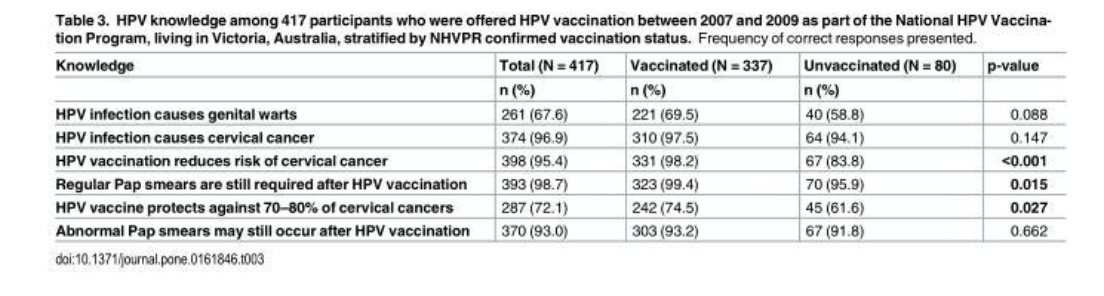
<table><thead><tr><td rowspan="2">Knowledge</td><td rowspan="2">Total (N = 417) n (%)</td><td rowspan="2">Vaccinated (N = 337) n (%)</td><td rowspan="2">Unvaccinated (N = 80) n (%)</td><td rowspan="2">p-value</td></tr><tr></tr></thead><tbody><tr><td>HPV infection causes genital warts</td><td>261 (67.6)</td><td>221 (69.5)</td><td>40 (58.8)</td><td>0.088</td></tr><tr><td>HPV infection causes cervical cancer</td><td>374 (96.9)</td><td>310 (97.5)</td><td>64 (94.1)</td><td>0.147</td></tr><tr><td>HPV vaccination reduces risk of cervical cancer</td><td>398 (95.4)</td><td>331 (98.2)</td><td>67 (83.8)</td><td>&lt;0.001</td></tr><tr><td>Regular Pap smears are still required after HPV vaccination</td><td>393 (98.7)</td><td>323 (99.4)</td><td>70 (95.9)</td><td>0.015</td></tr><tr><td>HPV vaccine protects against 70–80% of cervical cancers</td><td>287 (72.1)</td><td>242 (74.5)</td><td>45 (61.6)</td><td>0.027</td></tr><tr><td>Abnormal Pap smears may still occur after HPV vaccination</td><td>370 (93.0)</td><td>303 (93.2)</td><td>67 (91.8)</td><td>0.662</td></tr></tbody></table>